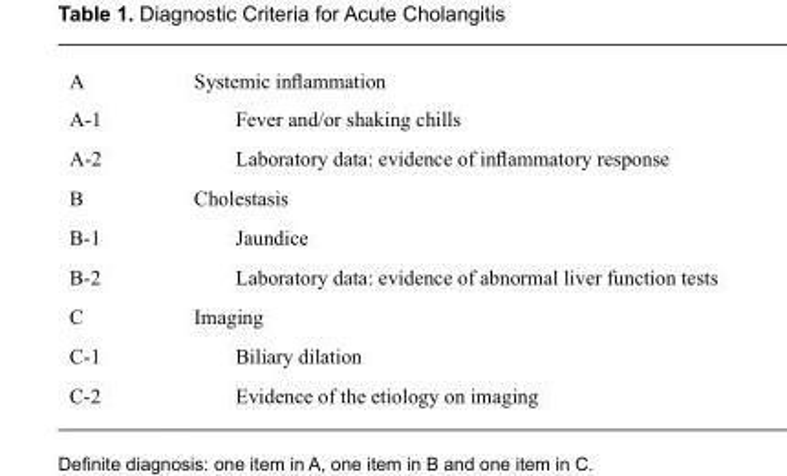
<table><tbody><tr><td>A</td><td>Systemic inflammation</td></tr><tr><td>A-1</td><td>Fever and/or shaking chills</td></tr><tr><td>A-2</td><td>Laboratory data: evidence of inflammatory response</td></tr><tr><td>B</td><td>Cholestasis</td></tr><tr><td>B-1</td><td>Jaundice</td></tr><tr><td>B-2</td><td>Laboratory data: evidence of abnormal liver function tests</td></tr><tr><td>C</td><td>Imaging</td></tr><tr><td>C-1</td><td>Biliary dilation</td></tr><tr><td>C-2</td><td>Evidence of the etiology on imaging</td></tr></tbody></table>